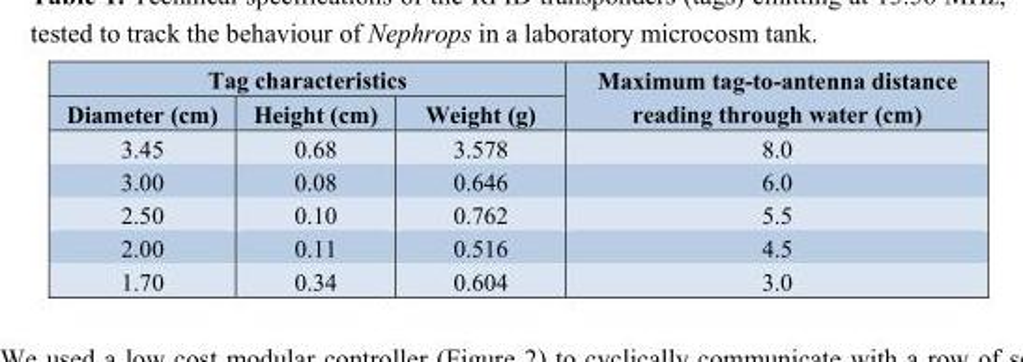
<table><thead><tr><td colspan="3">Tag characteristics</td><td rowspan="2">Maximum tag-to-antenna distance reading through water (cm)</td></tr><tr><td>Diameter (cm)</td><td>Height (cm)</td><td>Weight (g)</td></tr></thead><tbody><tr><td>3.45</td><td>0.68</td><td>3.578</td><td>8.0</td></tr><tr><td>3.00</td><td>0.08</td><td>0.646</td><td>6.0</td></tr><tr><td>2.50</td><td>0.10</td><td>0.762</td><td>5.5</td></tr><tr><td>2.00</td><td>0.11</td><td>0.516</td><td>4.5</td></tr><tr><td>1.70</td><td>0.34</td><td>0.604</td><td>3.0</td></tr></tbody></table>